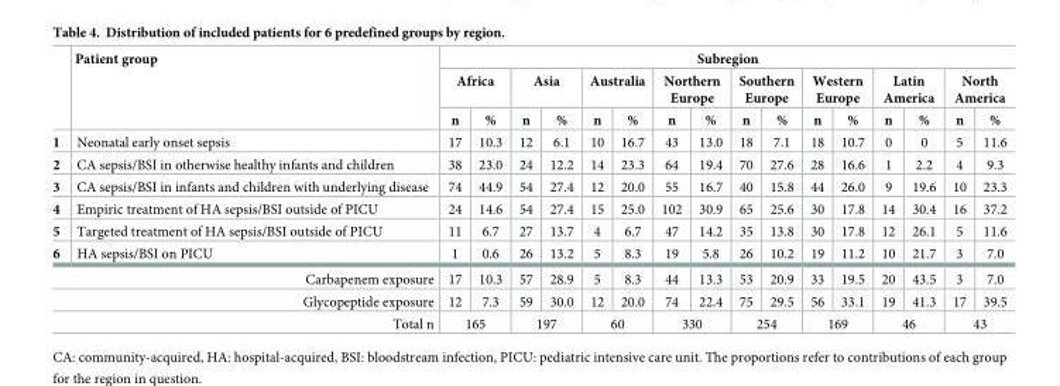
<table><thead><tr><td rowspan="3"></td><td rowspan="3">Patient group</td><td colspan="16">Subregion</td></tr><tr><td colspan="2">Africa</td><td colspan="2">Asia</td><td colspan="2">Australia</td><td colspan="2">Northern Europe</td><td colspan="2">Southern Europe</td><td colspan="2">Western Europe</td><td colspan="2">Latin America</td><td colspan="2">North America</td></tr><tr><td>n</td><td>%</td><td>n</td><td>%</td><td>n</td><td>%</td><td>n</td><td>%</td><td>n</td><td>%</td><td>n</td><td>%</td><td>n</td><td>%</td><td>n</td><td>%</td></tr></thead><tbody><tr><td>1</td><td>Neonatal early onset sepsis</td><td>17</td><td>10.3</td><td>12</td><td>6.1</td><td>10</td><td>16.7</td><td>43</td><td>13.0</td><td>18</td><td>7.1</td><td>18</td><td>10.7</td><td>0</td><td>0</td><td>5</td><td>11.6</td></tr><tr><td>2</td><td>CA sepsis/BSI in otherwise healthy infants and children</td><td>38</td><td>23.0</td><td>24</td><td>12.2</td><td>14</td><td>23.3</td><td>64</td><td>19.4</td><td>70</td><td>27.6</td><td>28</td><td>16.6</td><td>1</td><td>2.2</td><td>4</td><td>9.3</td></tr><tr><td>3</td><td>CA sepsis/BSI in infants and children with underlying disease</td><td>74</td><td>44.9</td><td>54</td><td>27.4</td><td>12</td><td>20.0</td><td>55</td><td>16.7</td><td>40</td><td>15.8</td><td>44</td><td>26.0</td><td>9</td><td>19.6</td><td>10</td><td>23.3</td></tr><tr><td>4</td><td>Empiric treatment of HA sepsis/BSI outside of PICU</td><td>24</td><td>14.6</td><td>54</td><td>27.4</td><td>15</td><td>25.0</td><td>102</td><td>30.9</td><td>65</td><td>25.6</td><td>30</td><td>17.8</td><td>14</td><td>30.4</td><td>16</td><td>37.2</td></tr><tr><td>5</td><td>Targeted treatment of HA sepsis/BSI outside of PICU</td><td>11</td><td>6.7</td><td>27</td><td>13.7</td><td>4</td><td>6.7</td><td>47</td><td>14.2</td><td>35</td><td>13.8</td><td>30</td><td>17.8</td><td>12</td><td>26.1</td><td>5</td><td>11.6</td></tr><tr><td>6</td><td>HA sepsis/BSI on PICU</td><td>1</td><td>0.6</td><td>26</td><td>13.2</td><td>5</td><td>8.3</td><td>19</td><td>5.8</td><td>26</td><td>10.2</td><td>19</td><td>11.2</td><td>10</td><td>21.7</td><td>3</td><td>7.0</td></tr><tr><td colspan="2">Carbapenem exposure</td><td>17</td><td>10.3</td><td>57</td><td>28.9</td><td>5</td><td>8.3</td><td>44</td><td>13.3</td><td>53</td><td>20.9</td><td>33</td><td>19.5</td><td>20</td><td>43.5</td><td>3</td><td>7.0</td></tr><tr><td colspan="2">Glycopeptide exposure</td><td>12</td><td>7.3</td><td>59</td><td>30.0</td><td>12</td><td>20.0</td><td>74</td><td>22.4</td><td>75</td><td>29.5</td><td>56</td><td>33.1</td><td>19</td><td>41.3</td><td>17</td><td>39.5</td></tr><tr><td colspan="2">Total n</td><td colspan="2">165</td><td colspan="2">197</td><td colspan="2">60</td><td colspan="2">330</td><td colspan="2">254</td><td colspan="2">169</td><td colspan="2">46</td><td colspan="2">43</td></tr></tbody></table>